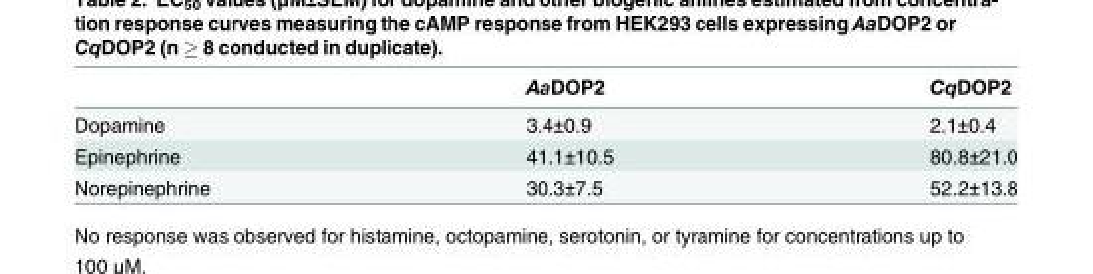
<table><thead><tr><td></td><td>AaDOP2</td><td>CqDOP2</td></tr></thead><tbody><tr><td>Dopamine</td><td>3.4±0.9</td><td>2.1±0.4</td></tr><tr><td>Epinephrine</td><td>41.1±10.5</td><td>80.8±21.0</td></tr><tr><td>Norepinephrine</td><td>30.3±7.5</td><td>52.2±13.8</td></tr></tbody></table>